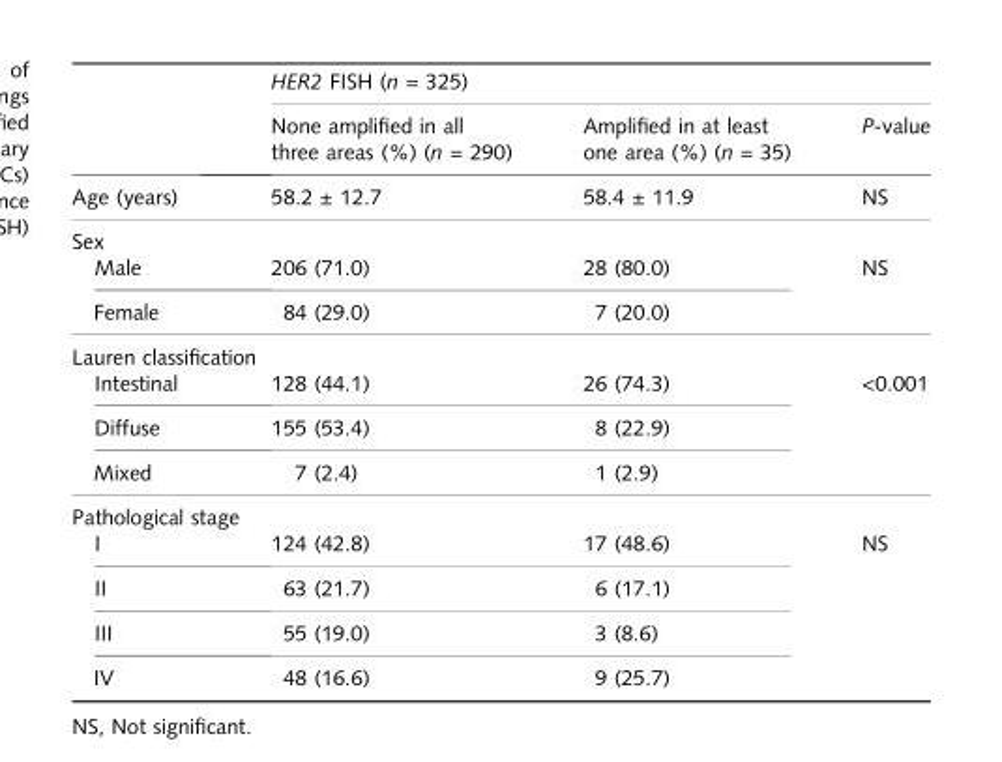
<table><thead><tr><td rowspan="2"></td><td colspan="3">HER2 FISH (n = 325)</td></tr><tr><td>None amplified in all three areas (%) (n = 290)</td><td>Amplified in at least one area (%) (n = 35)</td><td>P-value</td></tr></thead><tbody><tr><td>Age (years)</td><td>58.2 ± 12.7</td><td>58.4 ± 11.9</td><td>NS</td></tr><tr><td colspan="4">Sex</td></tr><tr><td>Male</td><td>206 (71.0)</td><td>28 (80.0)</td><td>NS</td></tr><tr><td>Female</td><td>84 (29.0)</td><td>7 (20.0)</td><td></td></tr><tr><td colspan="4">Lauren classification</td></tr><tr><td>Intestinal</td><td>128 (44.1)</td><td>26 (74.3)</td><td>&lt;0.001</td></tr><tr><td>Diffuse</td><td>155 (53.4)</td><td>8 (22.9)</td><td></td></tr><tr><td>Mixed</td><td>7 (2.4)</td><td>1 (2.9)</td><td></td></tr><tr><td colspan="4">Pathological stage</td></tr><tr><td>I</td><td>124 (42.8)</td><td>17 (48.6)</td><td>NS</td></tr><tr><td>II</td><td>63 (21.7)</td><td>6 (17.1)</td><td></td></tr><tr><td>III</td><td>55 (19.0)</td><td>3 (8.6)</td><td></td></tr><tr><td>IV</td><td>48 (16.6)</td><td>9 (25.7)</td><td></td></tr></tbody></table>